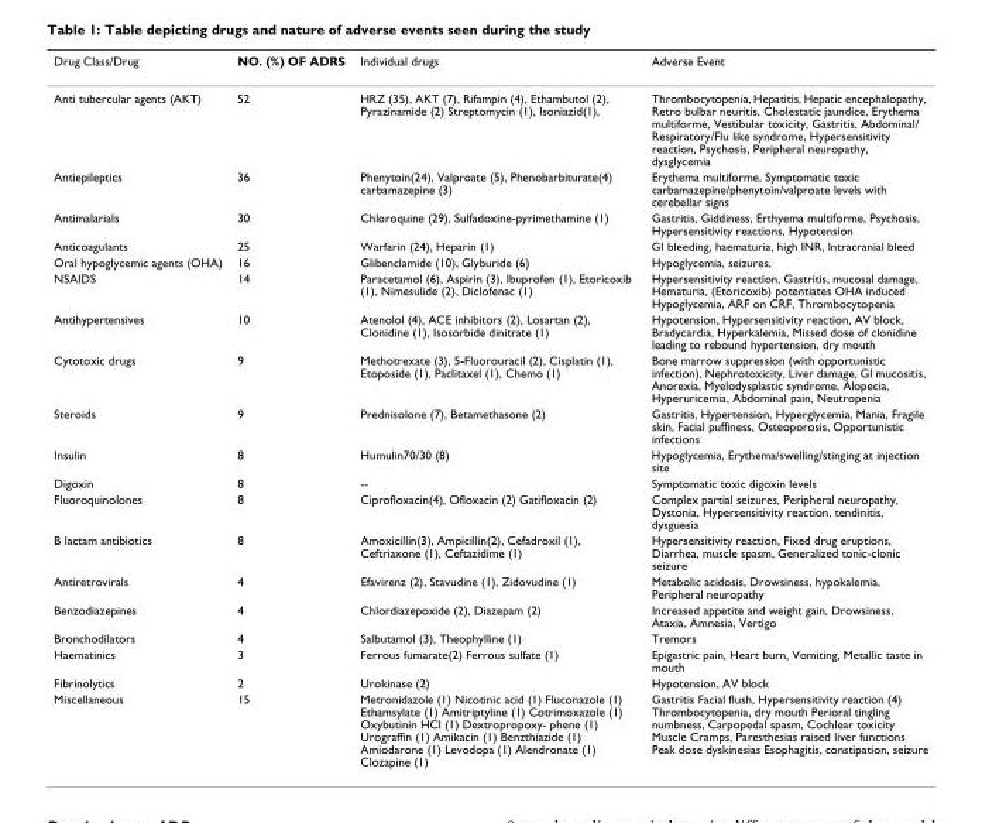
<table><thead><tr><td>Drug Class/Drug</td><td>NO. (%) OF ADRS</td><td>Individual drugs</td><td>Adverse Event</td></tr></thead><tbody><tr><td>Anti tubercular agents (AKT)</td><td>52</td><td>HRZ (35), AKT (7), Rifampin (4), Ethambutol (2), Pyrazinamide (2) Streptomycin (1), Isoniazid(1),</td><td>Thrombocytopenia, Hepatitis, Hepatic encephalopathy, Retro bulbar neuritis, Cholestatic jaundice, Erythema multiforme, Vestibular toxicity, Gastritis, Abdominal/ Respiratory/Flu like syndrome, Hypersensitivity reaction, Psychosis, Peripheral neuropathy, dysglycemia</td></tr><tr><td>Antiepileptics</td><td>36</td><td>Phenytoin(24), Valproate (5), Phenobarbiturate(4) carbamazepine (3)</td><td>Erythema multiforme, Symptomatic toxic carbamazepine/phenytoin/valproate levels with cerebellar signs</td></tr><tr><td>Antimalarials</td><td>30</td><td>Chloroquine (29), Sulfadoxine-pyrimethamine (1)</td><td>Gastritis, Giddiness, Erthyema multiforme, Psychosis, Hypersensitivity reactions, Hypotension</td></tr><tr><td>Anticoagulants</td><td>25</td><td>Warfarin (24), Heparin (1)</td><td>GI bleeding, haematuria, high INR, Intracranial bleed</td></tr><tr><td>Oral hypoglycemic agents (OHA)</td><td>16</td><td>Glibenclamide (10), Glyburide (6)</td><td>Hypoglycemia, seizures,</td></tr><tr><td>NSAIDS</td><td>14</td><td>Paracetamol (6), Aspirin (3), Ibuprofen (1), Etoricoxib (1), Nimesulide (2), Diclofenac (1)</td><td>Hypersensitivity reaction, Gastritis, mucosal damage, Hematuria, (Etoricoxib) potentiates OHA induced Hypoglycemia, ARF on CRF, Thrombocytopenia</td></tr><tr><td>Antihypertensives</td><td>10</td><td>Atenolol (4), ACE inhibitors (2), Losartan (2), Clonidine (1), Isosorbide dinitrate (1)</td><td>Hypotension, Hypersensitivity reaction, AV block, Bradycardia, Hyperkalemia, Missed dose of clonidine leading to rebound hypertension, dry mouth</td></tr><tr><td>Cytotoxic drugs</td><td>9</td><td>Methotrexate (3), 5-Fluorouracil (2), Cisplatin (1), Etoposide (1), Paclitaxel (1), Chemo (1)</td><td>Bone marrow suppression (with opportunistic infection), Nephrotoxicity, Liver damage, GI mucositis, Anorexia, Myelodysplastic syndrome, Alopecia, Hyperuricemia, Abdominal pain, Neutropenia</td></tr><tr><td>Steroids</td><td>9</td><td>Prednisolone (7), Betamethasone (2)</td><td>Gastritis, Hypertension, Hyperglycemia, Mania, Fragile skin, Facial puffiness, Osteoporosis, Opportunistic infections</td></tr><tr><td>Insulin</td><td>8</td><td>Humulin70/30 (8)</td><td>Hypoglycemia, Erythema/swelling/stinging at injection site</td></tr><tr><td>Digoxin</td><td>8</td><td>--</td><td>Symptomatic toxic digoxin levels</td></tr><tr><td>Fluoroquinolones</td><td>8</td><td>Ciprofloxacin(4), Ofloxacin (2) Gatifloxacin (2)</td><td>Complex partial seizures, Peripheral neuropathy, Dystonia, Hypersensitivity reaction, tendinitis, dysguesia</td></tr><tr><td>B lactam antibiotics</td><td>8</td><td>Amoxicillin(3), Ampicillin(2), Cefadroxil (1), Ceftriaxone (1), Ceftazidime (1)</td><td>Hypersensitivity reaction, Fixed drug eruptions, Diarrhea, muscle spasm, Generalized tonic-clonic seizure</td></tr><tr><td>Antiretrovirals</td><td>4</td><td>Efavirenz (2), Stavudine (1), Zidovudine (1)</td><td>Metabolic acidosis, Drowsiness, hypokalemia, Peripheral neuropathy</td></tr><tr><td>Benzodiazepines</td><td>4</td><td>Chlordiazepoxide (2), Diazepam (2)</td><td>Increased appetite and weight gain, Drowsiness, Ataxia, Amnesia, Vertigo</td></tr><tr><td>Bronchodilators</td><td>4</td><td>Salbutamol (3), Theophylline (1)</td><td>Tremors</td></tr><tr><td>Haematinics</td><td>3</td><td>Ferrous fumarate(2) Ferrous sulfate (1)</td><td>Epigastric pain, Heart burn, Vomiting, Metallic taste in mouth</td></tr><tr><td>Fibrinolytics</td><td>2</td><td>Urokinase (2)</td><td>Hypotension, AV block</td></tr><tr><td>Miscellaneous</td><td>15</td><td>Metronidazole (1) Nicotinic acid (1) Fluconazole (1) Ethamsylate (1) Amitriptyline (1) Cotrimoxazole (1) Oxybutinin HCl (1) Dextropropoxy- phene (1) Urograffin (1) Amikacin (1) Benzthiazide (1) Amiodarone (1) Levodopa (1) Alendronate (1) Clozapine (1)</td><td>Gastritis Facial flush, Hypersensitivity reaction (4) Thrombocytopenia, dry mouth Perioral tingling numbness, Carpopedal spasm, Cochlear toxicity Muscle Cramps, Paresthesias raised liver functions Peak dose dyskinesias Esophagitis, constipation, seizure</td></tr></tbody></table>